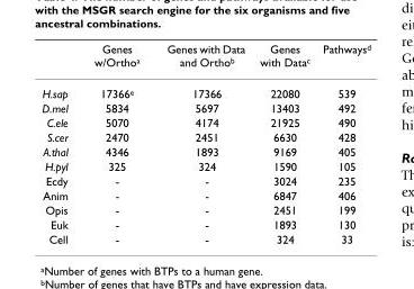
<table><thead><tr><td></td><td>Genes w/Orthoa</td><td>Genes with Data and Orthob</td><td>Genes with Datac</td><td>Pathwaysd</td></tr></thead><tbody><tr><td>H.sap</td><td>17366e</td><td>17366</td><td>22080</td><td>539</td></tr><tr><td>D.mel</td><td>5834</td><td>5697</td><td>13403</td><td>492</td></tr><tr><td>C.ele</td><td>5070</td><td>4174</td><td>21925</td><td>490</td></tr><tr><td>S.cer</td><td>2470</td><td>2451</td><td>6630</td><td>428</td></tr><tr><td>A.thal</td><td>4346</td><td>1893</td><td>9169</td><td>405</td></tr><tr><td>H.pyl</td><td>325</td><td>324</td><td>1590</td><td>105</td></tr><tr><td>Ecdy</td><td>-</td><td>-</td><td>3024</td><td>235</td></tr><tr><td>Anim</td><td>-</td><td>-</td><td>6847</td><td>406</td></tr><tr><td>Opis</td><td>-</td><td>-</td><td>2451</td><td>199</td></tr><tr><td>Euk</td><td>-</td><td>-</td><td>1893</td><td>130</td></tr><tr><td>Cell</td><td>-</td><td>-</td><td>324</td><td>33</td></tr></tbody></table>